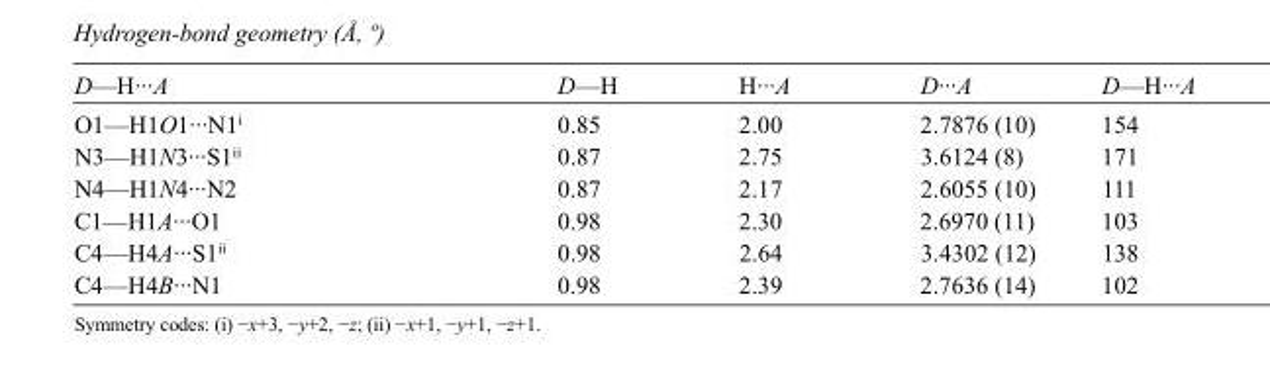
<table><tbody><tr><td>D—H···A</td><td>D—H</td><td>H···A</td><td>D···A</td><td>D—H···A</td></tr><tr><td>O1—H1O1···N1<sup>i</sup></td><td>0.85</td><td>2.00</td><td>2.7876 (10)</td><td>154</td></tr><tr><td>N3—H1N3···S1<sup>ii</sup></td><td>0.87</td><td>2.75</td><td>3.6124 (8)</td><td>171</td></tr><tr><td>N4—H1N4···N2</td><td>0.87</td><td>2.17</td><td>2.6055 (10)</td><td>111</td></tr><tr><td>C1—H1A···O1</td><td>0.98</td><td>2.30</td><td>2.6970 (11)</td><td>103</td></tr><tr><td>C4—H4A···S1<sup>ii</sup></td><td>0.98</td><td>2.64</td><td>3.4302 (12)</td><td>138</td></tr><tr><td>C4—H4B···N1</td><td>0.98</td><td>2.39</td><td>2.7636 (14)</td><td>102</td></tr></tbody></table>